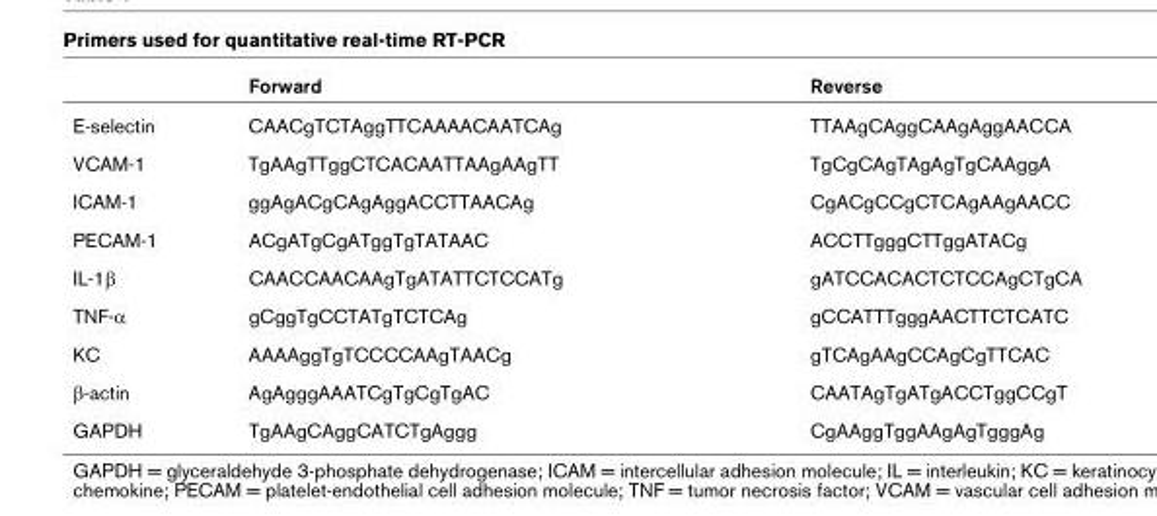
<table><thead><tr><td></td><td>Forward</td><td>Reverse</td></tr></thead><tbody><tr><td>E-selectin</td><td>CAACgTCTAggTTCAAAACAATCAg</td><td>TTAAgCAggCAAgAggAACCA</td></tr><tr><td>VCAM-1</td><td>TgAAgTTggCTCACAATTAAgAAgTT</td><td>TgCgCAgTAgAgTgCAAggA</td></tr><tr><td>ICAM-1</td><td>ggAgACgCAgAggACCTTAACAg</td><td>CgACgCCgCTCAgAAgAACC</td></tr><tr><td>PECAM-1</td><td>ACgATgCgATggTgTATAAC</td><td>ACCTTgggCTTggATACg</td></tr><tr><td>IL-1β</td><td>CAACCAACAAgTgATATTCTCCATg</td><td>gATCCACACTCTCCAgCTgCA</td></tr><tr><td>TNF-α</td><td>gCggTgCCTATgTCTCAg</td><td>gCCATTTgggAACTTCTCATC</td></tr><tr><td>KC</td><td>AAAAggTgTCCCCAAgTAACg</td><td>gTCAgAAgCCAgCgTTCAC</td></tr><tr><td>β-actin</td><td>AgAgggAAATCgTgCgTgAC</td><td>CAATAgTgATgACCTggCCgT</td></tr><tr><td>GAPDH</td><td>TgAAgCAggCATCTgAggg</td><td>CgAAggTggAAgAgTgggAg</td></tr></tbody></table>